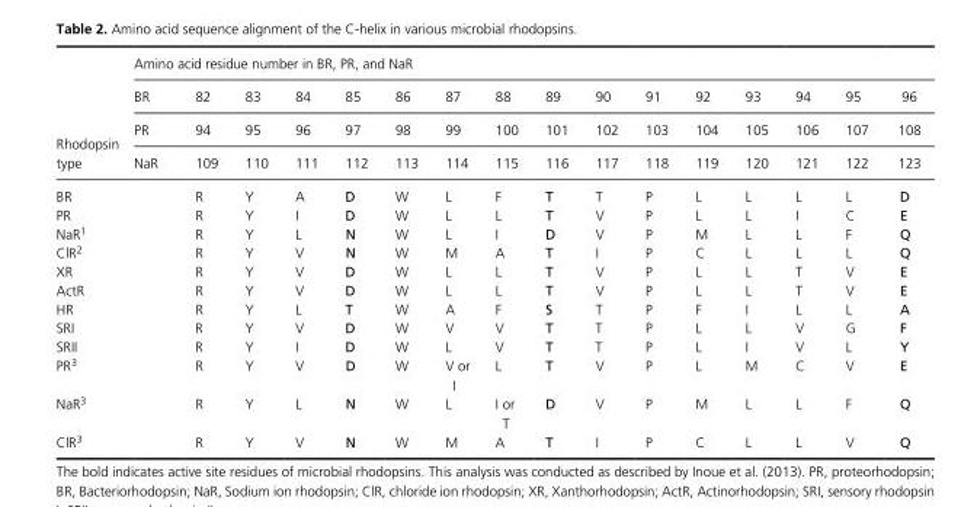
<table><thead><tr><td rowspan="4">Rhodopsin type</td><td colspan="16">Amino acid residue number in BR, PR, and NaR</td></tr><tr><td rowspan="3">BR PR NaR</td><td rowspan="3">82 94 109</td><td rowspan="3">83 95 110</td><td rowspan="3">84 96 111</td><td rowspan="3">85 97 112</td><td rowspan="3">86 98 113</td><td rowspan="3">87 99 114</td><td rowspan="3">88 100 115</td><td rowspan="3">89 101 116</td><td rowspan="3">90 102 117</td><td rowspan="3">91 103 118</td><td rowspan="3">92 104 119</td><td rowspan="3">93 105 120</td><td rowspan="3">94 106 121</td><td rowspan="3">95 107 122</td><td rowspan="3">96 108 123</td></tr><tr></tr><tr></tr></thead><tbody><tr><td>BR</td><td></td><td>R</td><td>Y</td><td>A</td><td>D</td><td>W</td><td>L</td><td>F</td><td>T</td><td>T</td><td>P</td><td>L</td><td>L</td><td>L</td><td>L</td><td>D</td></tr><tr><td>PR</td><td></td><td>R</td><td>Y</td><td>I</td><td>D</td><td>W</td><td>L</td><td>L</td><td>T</td><td>V</td><td>P</td><td>L</td><td>L</td><td>I</td><td>C</td><td>E</td></tr><tr><td>NaR1</td><td></td><td>R</td><td>Y</td><td>L</td><td>N</td><td>W</td><td>L</td><td>I</td><td>D</td><td>V</td><td>P</td><td>M</td><td>L</td><td>L</td><td>F</td><td>Q</td></tr><tr><td>ClR2</td><td></td><td>R</td><td>Y</td><td>V</td><td>N</td><td>W</td><td>M</td><td>A</td><td>T</td><td>I</td><td>P</td><td>C</td><td>L</td><td>L</td><td>L</td><td>Q</td></tr><tr><td>XR</td><td></td><td>R</td><td>Y</td><td>V</td><td>D</td><td>W</td><td>L</td><td>L</td><td>T</td><td>V</td><td>P</td><td>L</td><td>L</td><td>T</td><td>V</td><td>E</td></tr><tr><td>ActR</td><td></td><td>R</td><td>Y</td><td>V</td><td>D</td><td>W</td><td>L</td><td>L</td><td>T</td><td>V</td><td>P</td><td>L</td><td>L</td><td>T</td><td>V</td><td>E</td></tr><tr><td>HR</td><td></td><td>R</td><td>Y</td><td>L</td><td>T</td><td>W</td><td>A</td><td>F</td><td>S</td><td>T</td><td>P</td><td>F</td><td>I</td><td>L</td><td>L</td><td>A</td></tr><tr><td>SRI</td><td></td><td>R</td><td>Y</td><td>V</td><td>D</td><td>W</td><td>V</td><td>V</td><td>T</td><td>T</td><td>P</td><td>L</td><td>L</td><td>V</td><td>G</td><td>F</td></tr><tr><td>SRII</td><td></td><td>R</td><td>Y</td><td>I</td><td>D</td><td>W</td><td>L</td><td>V</td><td>T</td><td>T</td><td>P</td><td>L</td><td>I</td><td>V</td><td>L</td><td>Y</td></tr><tr><td>PR3</td><td></td><td>R</td><td>Y</td><td>V</td><td>D</td><td>W</td><td>V or I</td><td>L</td><td>T</td><td>V</td><td>P</td><td>L</td><td>M</td><td>C</td><td>V</td><td>E</td></tr><tr><td>NaR3</td><td></td><td>R</td><td>Y</td><td>L</td><td>N</td><td>W</td><td>L</td><td>I or T</td><td>D</td><td>V</td><td>P</td><td>M</td><td>L</td><td>L</td><td>F</td><td>Q</td></tr><tr><td>ClR3</td><td></td><td>R</td><td>Y</td><td>V</td><td>N</td><td>W</td><td>M</td><td>A</td><td>T</td><td>I</td><td>P</td><td>C</td><td>L</td><td>L</td><td>V</td><td>Q</td></tr></tbody></table>